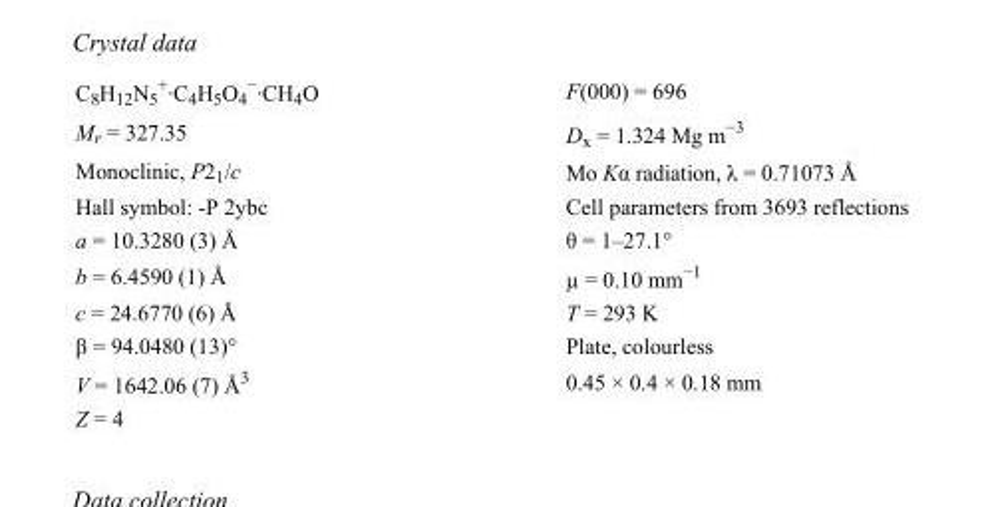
<table><tbody><tr><td>C<sub>8</sub>H<sub>12</sub>N<sub>5</sub> <sup>+</sup>·C<sub>4</sub>H<sub>5</sub>O<sub>4</sub> <sup>−</sup>·CH<sub>4</sub>O</td><td>F(000) = 696</td></tr><tr><td>M<sub>r</sub> = 327.35</td><td>D<sub>x</sub> = 1.324 Mg m<sup>−3</sup></td></tr><tr><td>Monoclinic, P2<sub>1</sub>/c</td><td>Mo Kα radiation, λ = 0.71073 Å</td></tr><tr><td>Hall symbol: -P 2ybc</td><td>Cell parameters from 3693 reflections</td></tr><tr><td>a = 10.3280 (3) Å</td><td>θ = 1–27.1°</td></tr><tr><td>b = 6.4590 (1) Å</td><td>µ = 0.10 mm<sup>−1</sup></td></tr><tr><td>c = 24.6770 (6) Å</td><td>T = 293 K</td></tr><tr><td>β = 94.0480 (13)°</td><td>Plate, colourless</td></tr><tr><td>V = 1642.06 (7) Å<sup>3</sup></td><td>0.45 × 0.4 × 0.18 mm</td></tr><tr><td>Z = 4</td><td></td></tr></tbody></table>